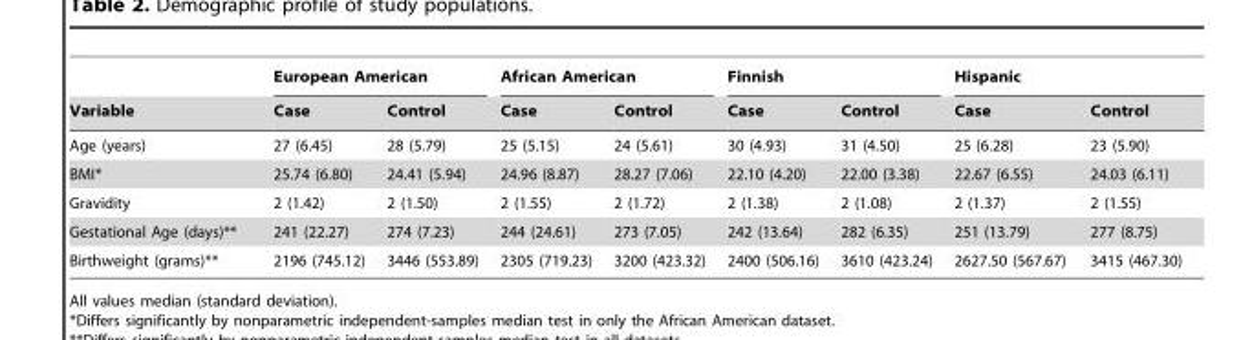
<table><thead><tr><td rowspan="2">Variable</td><td colspan="2">European American</td><td colspan="2">African American</td><td colspan="2">Finnish</td><td colspan="2">Hispanic</td></tr><tr><td>Case</td><td>Control</td><td>Case</td><td>Control</td><td>Case</td><td>Control</td><td>Case</td><td>Control</td></tr></thead><tbody><tr><td>Age (years)</td><td>27 (6.45)</td><td>28 (5.79)</td><td>25 (5.15)</td><td>24 (5.61)</td><td>30 (4.93)</td><td>31 (4.50)</td><td>25 (6.28)</td><td>23 (5.90)</td></tr><tr><td>BMI*</td><td>25.74 (6.80)</td><td>24.41 (5.94)</td><td>24.96 (8.87)</td><td>28.27 (7.06)</td><td>22.10 (4.20)</td><td>22.00 (3.38)</td><td>22.67 (6.55)</td><td>24.03 (6.11)</td></tr><tr><td>Gravidity</td><td>2 (1.42)</td><td>2 (1.50)</td><td>2 (1.55)</td><td>2 (1.72)</td><td>2 (1.38)</td><td>2 (1.08)</td><td>2 (1.37)</td><td>2 (1.55)</td></tr><tr><td>Gestational Age (days)**</td><td>241 (22.27)</td><td>274 (7.23)</td><td>244 (24.61)</td><td>273 (7.05)</td><td>242 (13.64)</td><td>282 (6.35)</td><td>251 (13.79)</td><td>277 (8.75)</td></tr><tr><td>Birthweight (grams)**</td><td>2196 (745.12)</td><td>3446 (553.89)</td><td>2305 (719.23)</td><td>3200 (423.32)</td><td>2400 (506.16)</td><td>3610 (423.24)</td><td>2627.50 (567.67)</td><td>3415 (467.30)</td></tr></tbody></table>